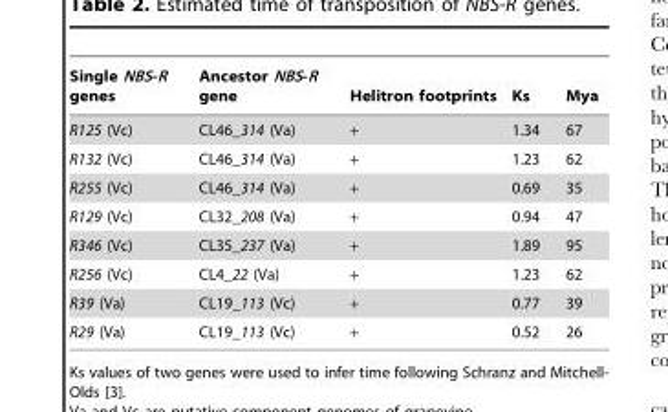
<table><thead><tr><td>Single NBS-R genes</td><td>Ancestor NBS-R gene</td><td>Helitron footprints</td><td>Ks</td><td>Mya</td></tr></thead><tbody><tr><td>R125 (Vc)</td><td>CL46_314 (Va)</td><td>+</td><td>1.34</td><td>67</td></tr><tr><td>R132 (Vc)</td><td>CL46_314 (Va)</td><td>+</td><td>1.23</td><td>62</td></tr><tr><td>R255 (Vc)</td><td>CL46_314 (Va)</td><td>+</td><td>0.69</td><td>35</td></tr><tr><td>R129 (Vc)</td><td>CL32_208 (Va)</td><td>+</td><td>0.94</td><td>47</td></tr><tr><td>R346 (Vc)</td><td>CL35_237 (Va)</td><td>+</td><td>1.89</td><td>95</td></tr><tr><td>R256 (Vc)</td><td>CL4_22 (Va)</td><td>+</td><td>1.23</td><td>62</td></tr><tr><td>R39 (Va)</td><td>CL19_113 (Vc)</td><td>+</td><td>0.77</td><td>39</td></tr><tr><td>R29 (Va)</td><td>CL19_113 (Vc)</td><td>+</td><td>0.52</td><td>26</td></tr></tbody></table>